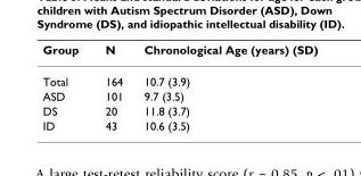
<table><thead><tr><td>Group</td><td>N</td><td>Chronological Age (years) (SD)</td></tr></thead><tbody><tr><td>Total</td><td>164</td><td>10.7 (3.9)</td></tr><tr><td>ASD</td><td>101</td><td>9.7 (3.5)</td></tr><tr><td>DS</td><td>20</td><td>11.8 (3.7)</td></tr><tr><td>ID</td><td>43</td><td>10.6 (3.5)</td></tr></tbody></table>